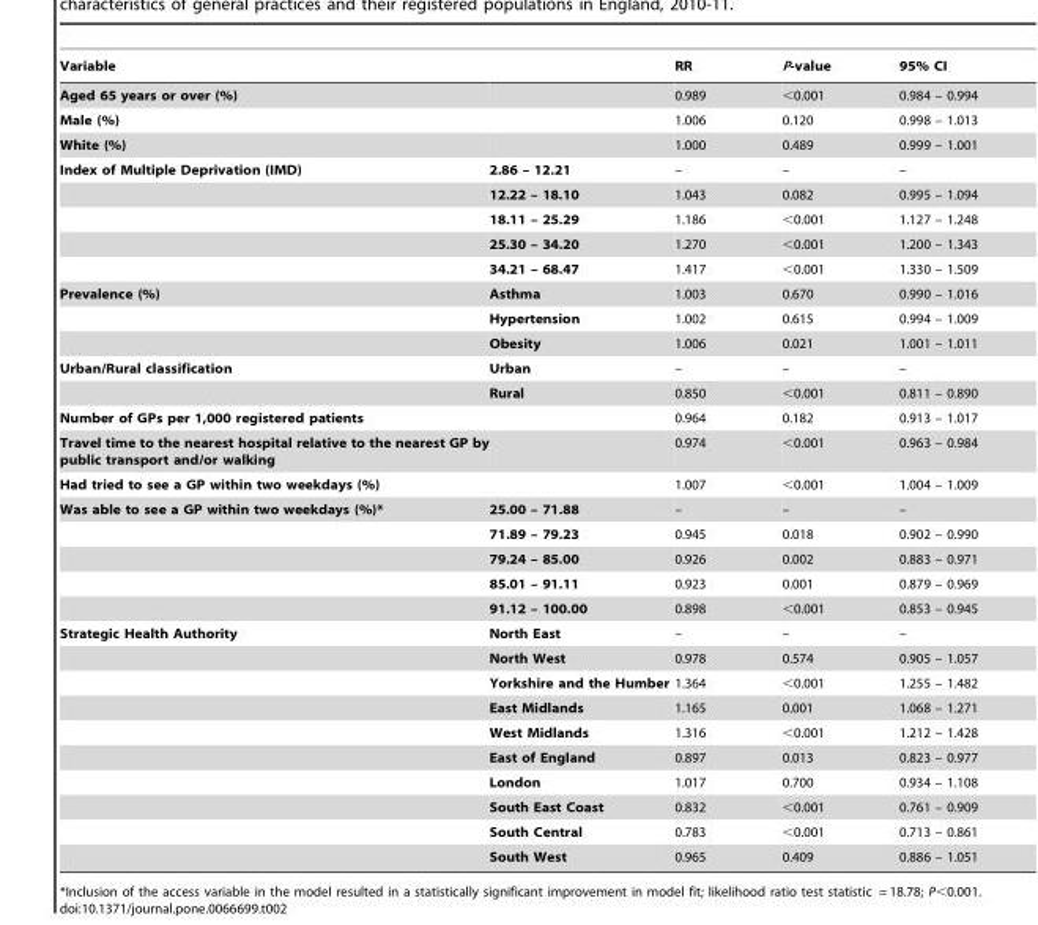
<table><thead><tr><td>Variable</td><td></td><td>RR</td><td>P-value</td><td>95% CI</td></tr></thead><tbody><tr><td>Aged 65 years or over (%)</td><td></td><td>0.989</td><td>&lt;0.001</td><td>0.984 – 0.994</td></tr><tr><td>Male (%)</td><td></td><td>1.006</td><td>0.120</td><td>0.998 – 1.013</td></tr><tr><td>White (%)</td><td></td><td>1.000</td><td>0.489</td><td>0.999 – 1.001</td></tr><tr><td rowspan="5">Index of Multiple Deprivation (IMD)</td><td>2.86 – 12.21</td><td>–</td><td>–</td><td>–</td></tr><tr><td>12.22 – 18.10</td><td>1.043</td><td>0.082</td><td>0.995 – 1.094</td></tr><tr><td>18.11 – 25.29</td><td>1.186</td><td>&lt;0.001</td><td>1.127 – 1.248</td></tr><tr><td>25.30 – 34.20</td><td>1.270</td><td>&lt;0.001</td><td>1.200 – 1.343</td></tr><tr><td>34.21 – 68.47</td><td>1.417</td><td>&lt;0.001</td><td>1.330 – 1.509</td></tr><tr><td rowspan="3">Prevalence (%)</td><td>Asthma</td><td>1.003</td><td>0.670</td><td>0.990 – 1.016</td></tr><tr><td>Hypertension</td><td>1.002</td><td>0.615</td><td>0.994 – 1.009</td></tr><tr><td>Obesity</td><td>1.006</td><td>0.021</td><td>1.001 – 1.011</td></tr><tr><td rowspan="2">Urban/Rural classification</td><td>Urban</td><td>–</td><td>–</td><td>–</td></tr><tr><td>Rural</td><td>0.850</td><td>&lt;0.001</td><td>0.811 – 0.890</td></tr><tr><td>Number of GPs per 1,000 registered patients</td><td></td><td>0.964</td><td>0.182</td><td>0.913 – 1.017</td></tr><tr><td>Travel time to the nearest hospital relative to the nearest GP by public transport and/or walking</td><td></td><td>0.974</td><td>&lt;0.001</td><td>0.963 – 0.984</td></tr><tr><td>Had tried to see a GP within two weekdays (%)</td><td></td><td>1.007</td><td>&lt;0.001</td><td>1.004 – 1.009</td></tr><tr><td rowspan="5">Was able to see a GP within two weekdays (%)*</td><td>25.00 – 71.88</td><td>–</td><td>–</td><td>–</td></tr><tr><td>71.89 – 79.23</td><td>0.945</td><td>0.018</td><td>0.902 – 0.990</td></tr><tr><td>79.24 – 85.00</td><td>0.926</td><td>0.002</td><td>0.883 – 0.971</td></tr><tr><td>85.01 – 91.11</td><td>0.923</td><td>0.001</td><td>0.879 – 0.969</td></tr><tr><td>91.12 – 100.00</td><td>0.898</td><td>&lt;0.001</td><td>0.853 – 0.945</td></tr><tr><td rowspan="10">Strategic Health Authority</td><td>North East</td><td>–</td><td>–</td><td>–</td></tr><tr><td>North West</td><td>0.978</td><td>0.574</td><td>0.905 – 1.057</td></tr><tr><td>Yorkshire and the Humber</td><td>1.364</td><td>&lt;0.001</td><td>1.255 – 1.482</td></tr><tr><td>East Midlands</td><td>1.165</td><td>0.001</td><td>1.068 – 1.271</td></tr><tr><td>West Midlands</td><td>1.316</td><td>&lt;0.001</td><td>1.212 – 1.428</td></tr><tr><td>East of England</td><td>0.897</td><td>0.013</td><td>0.823 – 0.977</td></tr><tr><td>London</td><td>1.017</td><td>0.700</td><td>0.934 – 1.108</td></tr><tr><td>South East Coast</td><td>0.832</td><td>&lt;0.001</td><td>0.761 – 0.909</td></tr><tr><td>South Central</td><td>0.783</td><td>&lt;0.001</td><td>0.713 – 0.861</td></tr><tr><td>South West</td><td>0.965</td><td>0.409</td><td>0.886 – 1.051</td></tr></tbody></table>